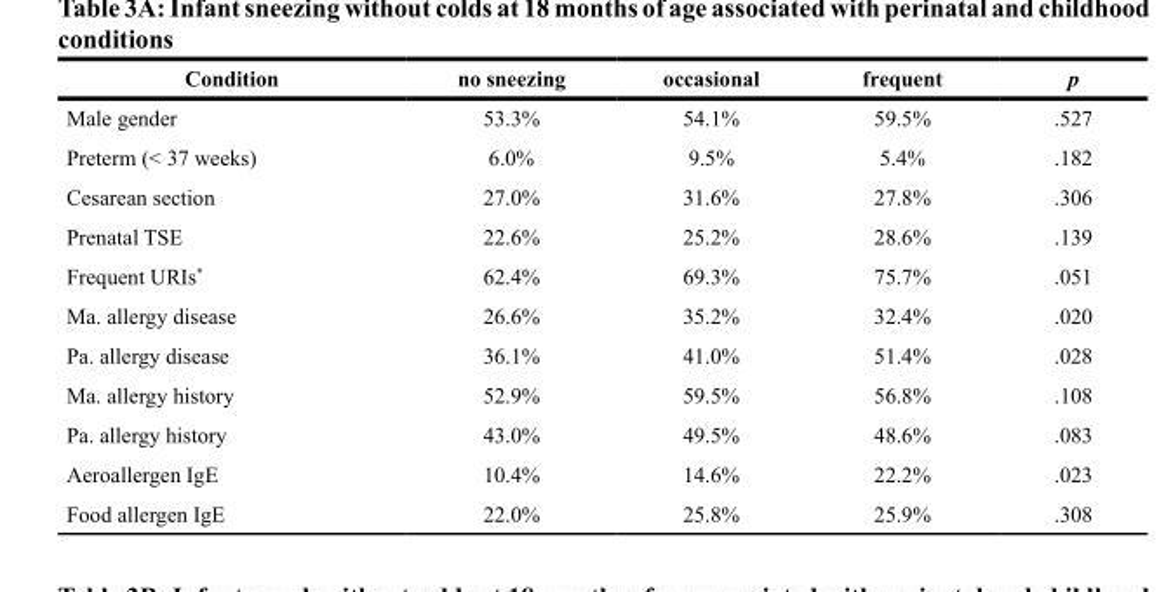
<table><thead><tr><td>Condition</td><td>no sneezing</td><td>occasional</td><td>frequent</td><td>p</td></tr></thead><tbody><tr><td>Male gender</td><td>53.3%</td><td>54.1%</td><td>59.5%</td><td>.527</td></tr><tr><td>Preterm (&lt; 37 weeks)</td><td>6.0%</td><td>9.5%</td><td>5.4%</td><td>.182</td></tr><tr><td>Cesarean section</td><td>27.0%</td><td>31.6%</td><td>27.8%</td><td>.306</td></tr><tr><td>Prenatal TSE</td><td>22.6%</td><td>25.2%</td><td>28.6%</td><td>.139</td></tr><tr><td>Frequent URIs*</td><td>62.4%</td><td>69.3%</td><td>75.7%</td><td>.051</td></tr><tr><td>Ma. allergy disease</td><td>26.6%</td><td>35.2%</td><td>32.4%</td><td>.020</td></tr><tr><td>Pa. allergy disease</td><td>36.1%</td><td>41.0%</td><td>51.4%</td><td>.028</td></tr><tr><td>Ma. allergy history</td><td>52.9%</td><td>59.5%</td><td>56.8%</td><td>.108</td></tr><tr><td>Pa. allergy history</td><td>43.0%</td><td>49.5%</td><td>48.6%</td><td>.083</td></tr><tr><td>Aeroallergen IgE</td><td>10.4%</td><td>14.6%</td><td>22.2%</td><td>.023</td></tr><tr><td>Food allergen IgE</td><td>22.0%</td><td>25.8%</td><td>25.9%</td><td>.308</td></tr></tbody></table>